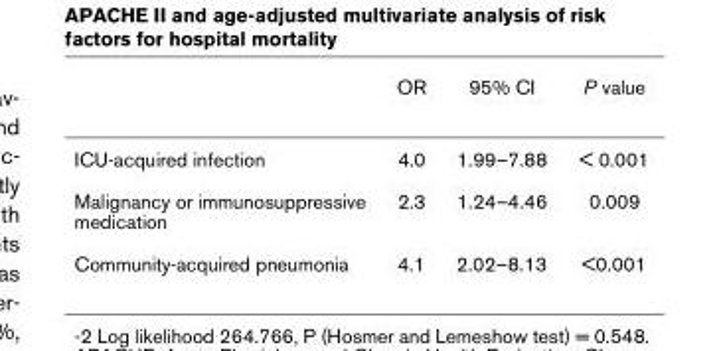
<table><thead><tr><td></td><td>OR</td><td>95% CI</td><td>P value</td></tr></thead><tbody><tr><td>ICU-acquired infection</td><td>4.0</td><td>1.99–7.88</td><td>&lt; 0.001</td></tr><tr><td>Malignancy or immunosuppressive medication</td><td>2.3</td><td>1.24–4.46</td><td>0.009</td></tr><tr><td>Community-acquired pneumonia</td><td>4.1</td><td>2.02–8.13</td><td>&lt;0.001</td></tr></tbody></table>